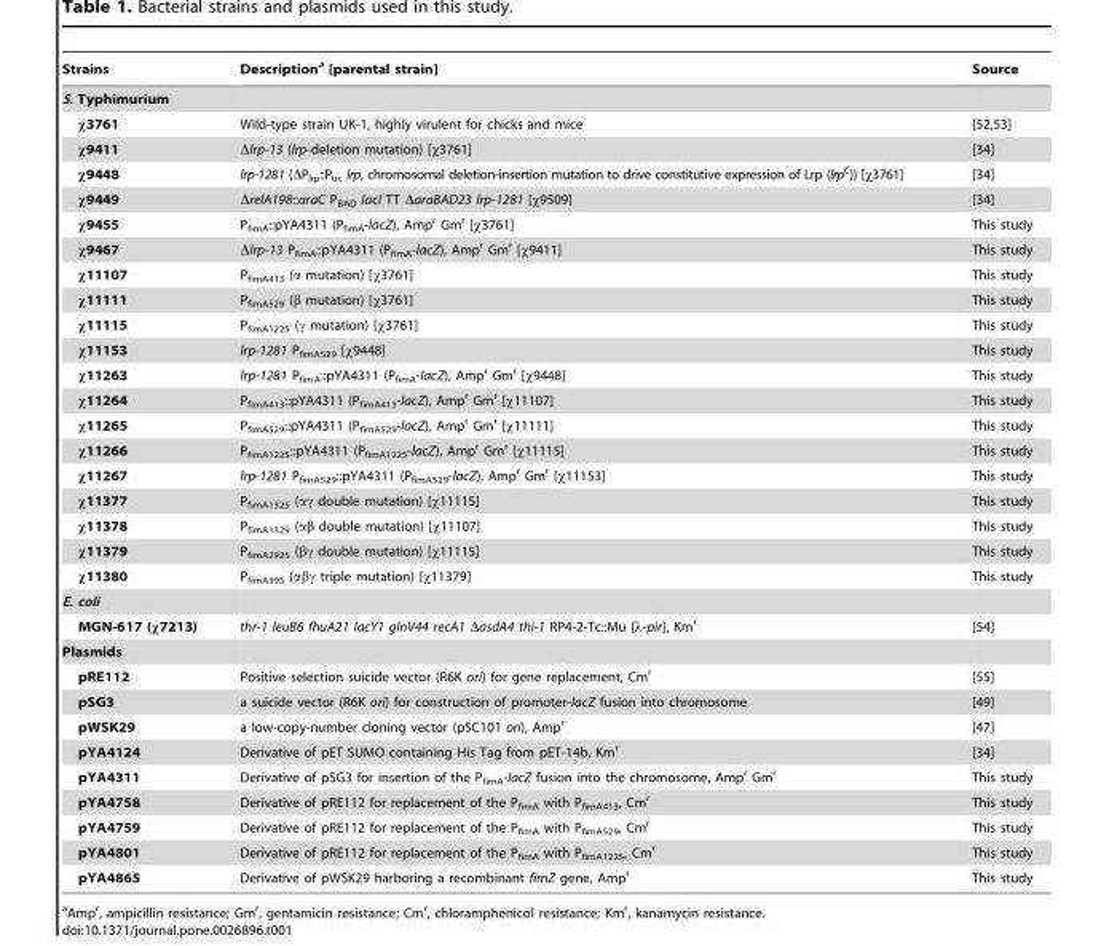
<table><thead><tr><td>Strains</td><td>Description<sup>a</sup> [parental strain]</td><td>Source</td></tr></thead><tbody><tr><td colspan="3">S. Typhimurium</td></tr><tr><td>χ3761</td><td>Wild-type strain UK-1, highly virulent for chicks and mice</td><td>[52,53]</td></tr><tr><td>χ9411</td><td>Δlrp-13 (lrp-deletion mutation) [χ3761]</td><td>[34]</td></tr><tr><td>χ9448</td><td>lrp-1281 (ΔP<sub>lrp</sub>::P<sub>trc</sub> lrp, chromosomal deletion-insertion mutation to drive constitutive expression of Lrp (lrp<sup>C</sup>)) [χ3761]</td><td>[34]</td></tr><tr><td>χ9449</td><td>ΔrelA198::araC P<sub>BAD</sub> lacI TT ΔaraBAD23 lrp-1281 [χ9509]</td><td>[34]</td></tr><tr><td>χ9455</td><td>P<sub>fimA</sub>::pYA4311 (P<sub>fimA</sub>-lacZ), Amp<sup>r</sup> Gm<sup>r</sup> [χ3761]</td><td>This study</td></tr><tr><td>χ9467</td><td>Δlrp-13 P<sub>fimA</sub>::pYA4311 (P<sub>fimA</sub>-lacZ), Amp<sup>r</sup> Gm<sup>r</sup> [χ9411]</td><td>This study</td></tr><tr><td>χ11107</td><td>P<sub>fimA413</sub> (α mutation) [χ3761]</td><td>This study</td></tr><tr><td>χ11111</td><td>P<sub>fimA529</sub> (β mutation) [χ3761]</td><td>This study</td></tr><tr><td>χ11115</td><td>P<sub>fimA1225</sub> (γ mutation) [χ3761]</td><td>This study</td></tr><tr><td>χ11153</td><td>lrp-1281 P<sub>fimA529</sub> [χ9448]</td><td>This study</td></tr><tr><td>χ11263</td><td>lrp-1281 P<sub>fimA</sub>::pYA4311 (P<sub>fimA</sub>-lacZ), Amp<sup>r</sup> Gm<sup>r</sup> [χ9448]</td><td>This study</td></tr><tr><td>χ11264</td><td>P<sub>fimA413</sub>::pYA4311 (P<sub>fimA413</sub>-lacZ), Amp<sup>r</sup> Gm<sup>r</sup> [χ11107]</td><td>This study</td></tr><tr><td>χ11265</td><td>P<sub>fimA529</sub>::pYA4311 (P<sub>fimA529</sub>-lacZ), Amp<sup>r</sup> Gm<sup>r</sup> [χ11111]</td><td>This study</td></tr><tr><td>χ11266</td><td>P<sub>fimA1225</sub>::pYA4311 (P<sub>fimA1225</sub>-lacZ), Amp<sup>r</sup> Gm<sup>r</sup> [χ11115]</td><td>This study</td></tr><tr><td>χ11267</td><td>lrp-1281 P<sub>fimA529</sub>::pYA4311 (P<sub>fimA529</sub>-lacZ), Amp<sup>r</sup> Gm<sup>r</sup> [χ11153]</td><td>This study</td></tr><tr><td>χ11377</td><td>P<sub>fimA1325</sub> (αγ double mutation) [χ11115]</td><td>This study</td></tr><tr><td>χ11378</td><td>P<sub>fimA1329</sub> (αβ double mutation) [χ11107]</td><td>This study</td></tr><tr><td>χ11379</td><td>P<sub>fimA2925</sub> (βγ double mutation) [χ11115]</td><td>This study</td></tr><tr><td>χ11380</td><td>P<sub>fimA395</sub> (αβγ triple mutation) [χ11379]</td><td>This study</td></tr><tr><td colspan="3">E. coli</td></tr><tr><td>MGN-617 (χ7213)</td><td>thr-1 leuB6 fhuA21 lacY1 glnV44 recA1 ΔasdA4 thi-1 RP4-2-Tc::Mu [λ-pir], Km<sup>r</sup></td><td>[54]</td></tr><tr><td colspan="3">Plasmids</td></tr><tr><td>pRE112</td><td>Positive selection suicide vector (R6K ori) for gene replacement, Cm<sup>r</sup></td><td>[55]</td></tr><tr><td>pSG3</td><td>a suicide vector (R6K ori) for construction of promoter-lacZ fusion into chromosome</td><td>[49]</td></tr><tr><td>pWSK29</td><td>a low-copy-number cloning vector (pSC101 ori), Amp<sup>r</sup></td><td>[47]</td></tr><tr><td>pYA4124</td><td>Derivative of pET SUMO containing His Tag from pET-14b, Km<sup>r</sup></td><td>[34]</td></tr><tr><td>pYA4311</td><td>Derivative of pSG3 for insertion of the P<sub>fimA</sub>-lacZ fusion into the chromosome, Amp<sup>r</sup> Gm<sup>r</sup></td><td>This study</td></tr><tr><td>pYA4758</td><td>Derivative of pRE112 for replacement of the P<sub>fimA</sub> with P<sub>fimA413</sub>, Cm<sup>r</sup></td><td>This study</td></tr><tr><td>pYA4759</td><td>Derivative of pRE112 for replacement of the P<sub>fimA</sub> with P<sub>fimA529</sub>, Cm<sup>r</sup></td><td>This study</td></tr><tr><td>pYA4801</td><td>Derivative of pRE112 for replacement of the P<sub>fimA</sub> with P<sub>fimA1225</sub>, Cm<sup>r</sup></td><td>This study</td></tr><tr><td>pYA4865</td><td>Derivative of pWSK29 harboring a recombinant fimZ gene, Amp<sup>r</sup></td><td>This study</td></tr></tbody></table>